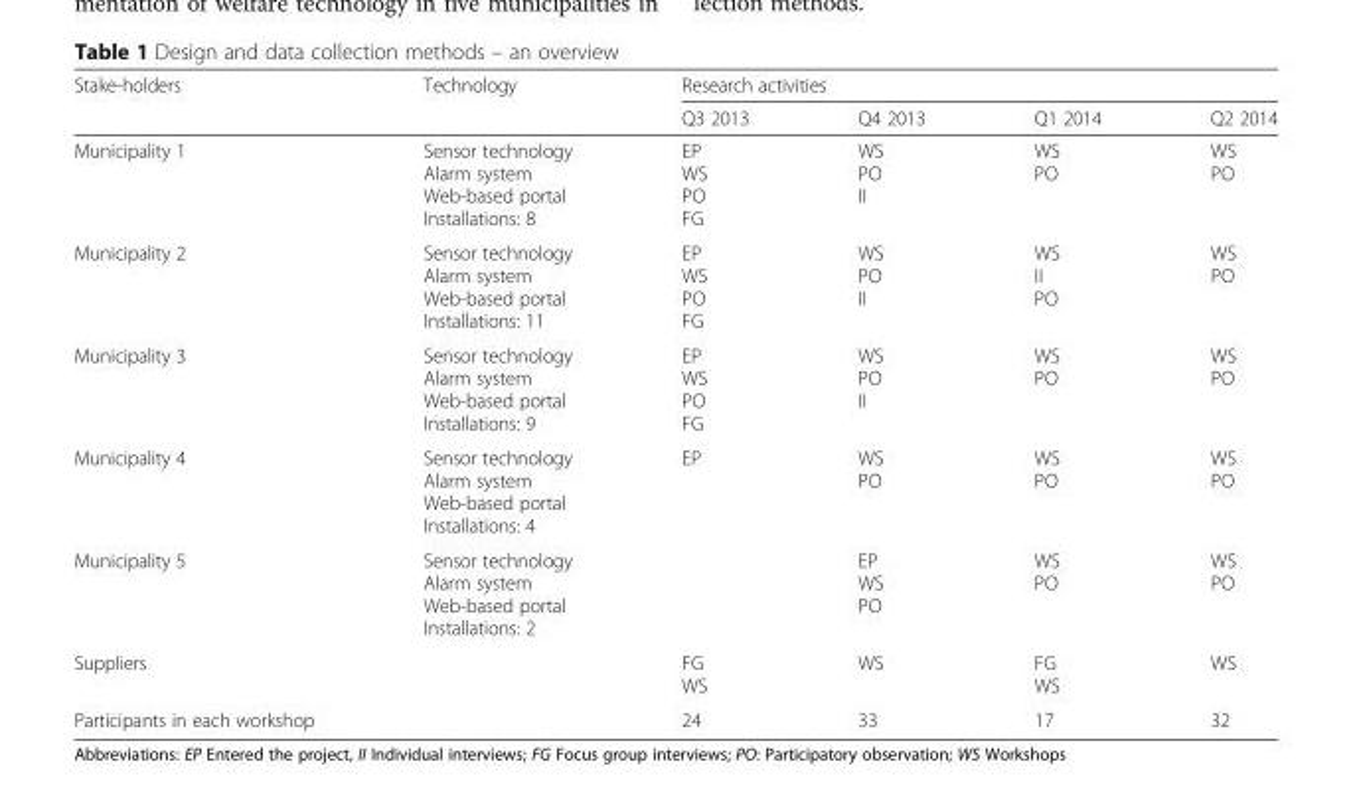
<table><thead><tr><td rowspan="2">Stake-holders</td><td rowspan="2">Technology</td><td colspan="4">Research activities</td></tr><tr><td>Q3 2013</td><td>Q4 2013</td><td>Q1 2014</td><td>Q2 2014</td></tr></thead><tbody><tr><td>Municipality 1</td><td>Sensor technology Alarm system Web-based portal Installations: 8</td><td>EP WS PO FG</td><td>WS PO II</td><td>WS PO</td><td>WS PO</td></tr><tr><td>Municipality 2</td><td>Sensor technology Alarm system Web-based portal Installations: 11</td><td>EP WS PO FG</td><td>WS PO II</td><td>WS II PO</td><td>WS PO</td></tr><tr><td>Municipality 3</td><td>Sensor technology Alarm system Web-based portal Installations: 9</td><td>EP WS PO FG</td><td>WS PO II</td><td>WS PO</td><td>WS PO</td></tr><tr><td>Municipality 4</td><td>Sensor technology Alarm system Web-based portal Installations: 4</td><td>EP</td><td>WS PO</td><td>WS PO</td><td>WS PO</td></tr><tr><td>Municipality 5</td><td>Sensor technology Alarm system Web-based portal Installations: 2</td><td></td><td>EP WS PO</td><td>WS PO</td><td>WS PO</td></tr><tr><td>Suppliers</td><td></td><td>FG WS</td><td>WS</td><td>FG WS</td><td>WS</td></tr><tr><td>Participants in each workshop</td><td></td><td>24</td><td>33</td><td>17</td><td>32</td></tr></tbody></table>